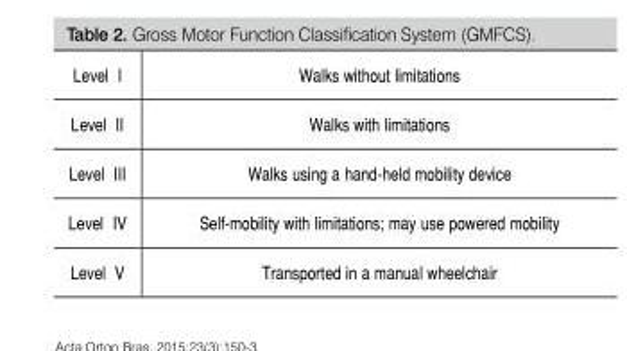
<table><tbody><tr><td>Level I</td><td>Walks without limitations</td></tr><tr><td>Level II</td><td>Walks with limitations</td></tr><tr><td>Level III</td><td>Walks using a hand-held mobility device</td></tr><tr><td>Level IV</td><td>Self-mobility with limitations; may use powered mobility</td></tr><tr><td>Level V</td><td>Transported in a manual wheelchair</td></tr></tbody></table>